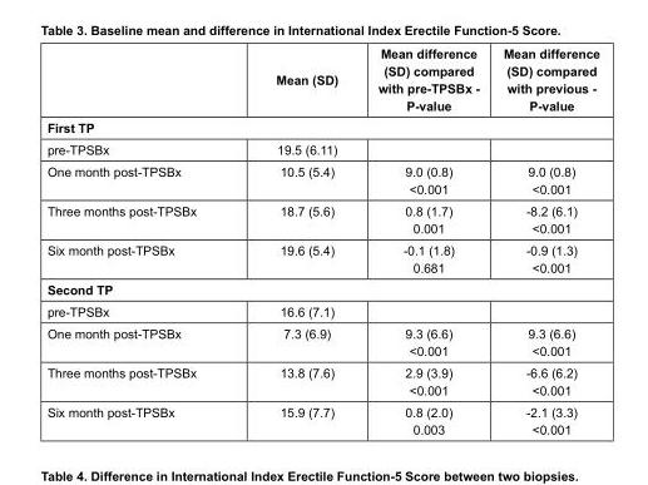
<table><thead><tr><td></td><td>Mean (SD)</td><td>Mean difference (SD) compared with pre-TPSBx - P-value</td><td>Mean difference (SD) compared with previous - P-value</td></tr></thead><tbody><tr><td colspan="4">First TP</td></tr><tr><td>pre-TPSBx</td><td>19.5 (6.11)</td><td></td><td></td></tr><tr><td>One month post-TPSBx</td><td>10.5 (5.4)</td><td>9.0 (0.8) &lt;0.001</td><td>9.0 (0.8) &lt;0.001</td></tr><tr><td>Three months post-TPSBx</td><td>18.7 (5.6)</td><td>0.8 (1.7) 0.001</td><td>-8.2 (6.1) &lt;0.001</td></tr><tr><td>Six month post-TPSBx</td><td>19.6 (5.4)</td><td>-0.1 (1.8) 0.681</td><td>-0.9 (1.3) &lt;0.001</td></tr><tr><td colspan="4">Second TP</td></tr><tr><td>pre-TPSBx</td><td>16.6 (7.1)</td><td></td><td></td></tr><tr><td>One month post-TPSBx</td><td>7.3 (6.9)</td><td>9.3 (6.6) &lt;0.001</td><td>9.3 (6.6) &lt;0.001</td></tr><tr><td>Three months post-TPSBx</td><td>13.8 (7.6)</td><td>2.9 (3.9) &lt;0.001</td><td>-6.6 (6.2) &lt;0.001</td></tr><tr><td>Six month post-TPSBx</td><td>15.9 (7.7)</td><td>0.8 (2.0) 0.003</td><td>-2.1 (3.3) &lt;0.001</td></tr></tbody></table>